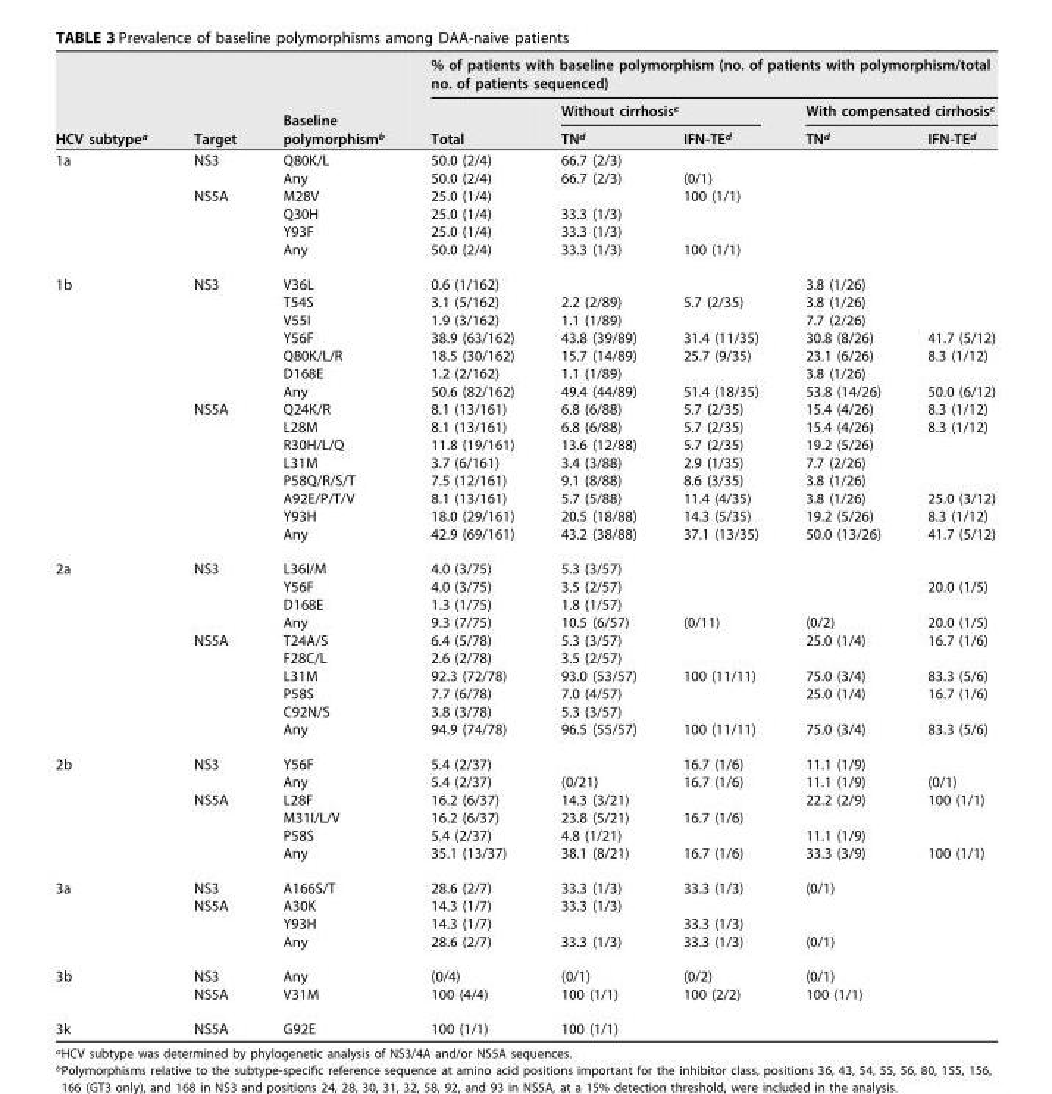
<table><thead><tr><td rowspan="3">HCV subtype<sup>a</sup></td><td rowspan="3">Target</td><td rowspan="3">Baseline polymorphism<sup>b</sup></td><td colspan="5">% of patients with baseline polymorphism (no. of patients with polymorphism/total no. of patients sequenced)</td></tr><tr><td rowspan="2">Total</td><td colspan="2">Without cirrhosis<sup>c</sup></td><td colspan="2">With compensated cirrhosis<sup>c</sup></td></tr><tr><td>TN<sup>d</sup></td><td>IFN-TE<sup>d</sup></td><td>TN<sup>d</sup></td><td>IFN-TE<sup>d</sup></td></tr></thead><tbody><tr><td rowspan="6">1a</td><td>NS3</td><td>Q80K/L</td><td>50.0 (2/4)</td><td>66.7 (2/3)</td><td></td><td></td><td></td></tr><tr><td></td><td>Any</td><td>50.0 (2/4)</td><td>66.7 (2/3)</td><td>(0/1)</td><td></td><td></td></tr><tr><td>NS5A</td><td>M28V</td><td>25.0 (1/4)</td><td></td><td>100 (1/1)</td><td></td><td></td></tr><tr><td></td><td>Q30H</td><td>25.0 (1/4)</td><td>33.3 (1/3)</td><td></td><td></td><td></td></tr><tr><td></td><td>Y93F</td><td>25.0 (1/4)</td><td>33.3 (1/3)</td><td></td><td></td><td></td></tr><tr><td></td><td>Any</td><td>50.0 (2/4)</td><td>33.3 (1/3)</td><td>100 (1/1)</td><td></td><td></td></tr><tr><td rowspan="15">1b</td><td>NS3</td><td>V36L</td><td>0.6 (1/162)</td><td></td><td></td><td>3.8 (1/26)</td><td></td></tr><tr><td></td><td>T54S</td><td>3.1 (5/162)</td><td>2.2 (2/89)</td><td>5.7 (2/35)</td><td>3.8 (1/26)</td><td></td></tr><tr><td></td><td>V55I</td><td>1.9 (3/162)</td><td>1.1 (1/89)</td><td></td><td>7.7 (2/26)</td><td></td></tr><tr><td></td><td>Y56F</td><td>38.9 (63/162)</td><td>43.8 (39/89)</td><td>31.4 (11/35)</td><td>30.8 (8/26)</td><td>41.7 (5/12)</td></tr><tr><td></td><td>Q80K/L/R</td><td>18.5 (30/162)</td><td>15.7 (14/89)</td><td>25.7 (9/35)</td><td>23.1 (6/26)</td><td>8.3 (1/12)</td></tr><tr><td></td><td>D168E</td><td>1.2 (2/162)</td><td>1.1 (1/89)</td><td></td><td>3.8 (1/26)</td><td></td></tr><tr><td></td><td>Any</td><td>50.6 (82/162)</td><td>49.4 (44/89)</td><td>51.4 (18/35)</td><td>53.8 (14/26)</td><td>50.0 (6/12)</td></tr><tr><td>NS5A</td><td>Q24K/R</td><td>8.1 (13/161)</td><td>6.8 (6/88)</td><td>5.7 (2/35)</td><td>15.4 (4/26)</td><td>8.3 (1/12)</td></tr><tr><td></td><td>L28M</td><td>8.1 (13/161)</td><td>6.8 (6/88)</td><td>5.7 (2/35)</td><td>15.4 (4/26)</td><td>8.3 (1/12)</td></tr><tr><td></td><td>R30H/L/Q</td><td>11.8 (19/161)</td><td>13.6 (12/88)</td><td>5.7 (2/35)</td><td>19.2 (5/26)</td><td></td></tr><tr><td></td><td>L31M</td><td>3.7 (6/161)</td><td>3.4 (3/88)</td><td>2.9 (1/35)</td><td>7.7 (2/26)</td><td></td></tr><tr><td></td><td>P58Q/R/S/T</td><td>7.5 (12/161)</td><td>9.1 (8/88)</td><td>8.6 (3/35)</td><td>3.8 (1/26)</td><td></td></tr><tr><td></td><td>A92E/P/T/V</td><td>8.1 (13/161)</td><td>5.7 (5/88)</td><td>11.4 (4/35)</td><td>3.8 (1/26)</td><td>25.0 (3/12)</td></tr><tr><td></td><td>Y93H</td><td>18.0 (29/161)</td><td>20.5 (18/88)</td><td>14.3 (5/35)</td><td>19.2 (5/26)</td><td>8.3 (1/12)</td></tr><tr><td></td><td>Any</td><td>42.9 (69/161)</td><td>43.2 (38/88)</td><td>37.1 (13/35)</td><td>50.0 (13/26)</td><td>41.7 (5/12)</td></tr><tr><td rowspan="10">2a</td><td>NS3</td><td>L36I/M</td><td>4.0 (3/75)</td><td>5.3 (3/57)</td><td></td><td></td><td></td></tr><tr><td></td><td>Y56F</td><td>4.0 (3/75)</td><td>3.5 (2/57)</td><td></td><td></td><td>20.0 (1/5)</td></tr><tr><td></td><td>D168E</td><td>1.3 (1/75)</td><td>1.8 (1/57)</td><td></td><td></td><td></td></tr><tr><td></td><td>Any</td><td>9.3 (7/75)</td><td>10.5 (6/57)</td><td>(0/11)</td><td>(0/2)</td><td>20.0 (1/5)</td></tr><tr><td>NS5A</td><td>T24A/S</td><td>6.4 (5/78)</td><td>5.3 (3/57)</td><td></td><td>25.0 (1/4)</td><td>16.7 (1/6)</td></tr><tr><td></td><td>F28C/L</td><td>2.6 (2/78)</td><td>3.5 (2/57)</td><td></td><td></td><td></td></tr><tr><td></td><td>L31M</td><td>92.3 (72/78)</td><td>93.0 (53/57)</td><td>100 (11/11)</td><td>75.0 (3/4)</td><td>83.3 (5/6)</td></tr><tr><td></td><td>P58S</td><td>7.7 (6/78)</td><td>7.0 (4/57)</td><td></td><td>25.0 (1/4)</td><td>16.7 (1/6)</td></tr><tr><td></td><td>C92N/S</td><td>3.8 (3/78)</td><td>5.3 (3/57)</td><td></td><td></td><td></td></tr><tr><td></td><td>Any</td><td>94.9 (74/78)</td><td>96.5 (55/57)</td><td>100 (11/11)</td><td>75.0 (3/4)</td><td>83.3 (5/6)</td></tr><tr><td rowspan="6">2b</td><td>NS3</td><td>Y56F</td><td>5.4 (2/37)</td><td></td><td>16.7 (1/6)</td><td>11.1 (1/9)</td><td></td></tr><tr><td></td><td>Any</td><td>5.4 (2/37)</td><td>(0/21)</td><td>16.7 (1/6)</td><td>11.1 (1/9)</td><td>(0/1)</td></tr><tr><td>NS5A</td><td>L28F</td><td>16.2 (6/37)</td><td>14.3 (3/21)</td><td></td><td>22.2 (2/9)</td><td>100 (1/1)</td></tr><tr><td></td><td>M31I/L/V</td><td>16.2 (6/37)</td><td>23.8 (5/21)</td><td>16.7 (1/6)</td><td></td><td></td></tr><tr><td></td><td>P58S</td><td>5.4 (2/37)</td><td>4.8 (1/21)</td><td></td><td>11.1 (1/9)</td><td></td></tr><tr><td></td><td>Any</td><td>35.1 (13/37)</td><td>38.1 (8/21)</td><td>16.7 (1/6)</td><td>33.3 (3/9)</td><td>100 (1/1)</td></tr><tr><td rowspan="4">3a</td><td>NS3</td><td>A166S/T</td><td>28.6 (2/7)</td><td>33.3 (1/3)</td><td>33.3 (1/3)</td><td>(0/1)</td><td></td></tr><tr><td>NS5A</td><td>A30K</td><td>14.3 (1/7)</td><td>33.3 (1/3)</td><td></td><td></td><td></td></tr><tr><td></td><td>Y93H</td><td>14.3 (1/7)</td><td></td><td>33.3 (1/3)</td><td></td><td></td></tr><tr><td></td><td>Any</td><td>28.6 (2/7)</td><td>33.3 (1/3)</td><td>33.3 (1/3)</td><td>(0/1)</td><td></td></tr><tr><td rowspan="2">3b</td><td>NS3</td><td>Any</td><td>(0/4)</td><td>(0/1)</td><td>(0/2)</td><td>(0/1)</td><td></td></tr><tr><td>NS5A</td><td>V31M</td><td>100 (4/4)</td><td>100 (1/1)</td><td>100 (2/2)</td><td>100 (1/1)</td><td></td></tr><tr><td>3k</td><td>NS5A</td><td>G92E</td><td>100 (1/1)</td><td>100 (1/1)</td><td></td><td></td><td></td></tr></tbody></table>